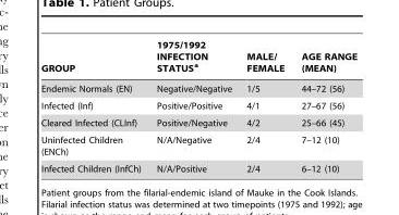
<table><thead><tr><td>GROUP</td><td>1975/1992 INFECTION STATUS<sup>a</sup></td><td>MALE/ FEMALE</td><td>AGE RANGE (MEAN)</td></tr></thead><tbody><tr><td>Endemic Normals (EN)</td><td>Negative/Negative</td><td>1/5</td><td>44–72 (56)</td></tr><tr><td>Infected (Inf)</td><td>Positive/Positive</td><td>4/1</td><td>27–67 (56)</td></tr><tr><td>Cleared Infected (CLInf)</td><td>Positive/Negative</td><td>4/2</td><td>25–66 (45)</td></tr><tr><td>Uninfected Children (ENCh)</td><td>N/A/Negative</td><td>2/4</td><td>7–12 (10)</td></tr><tr><td>Infected Children (InfCh)</td><td>N/A/Positive</td><td>2/4</td><td>6–12 (10)</td></tr></tbody></table>